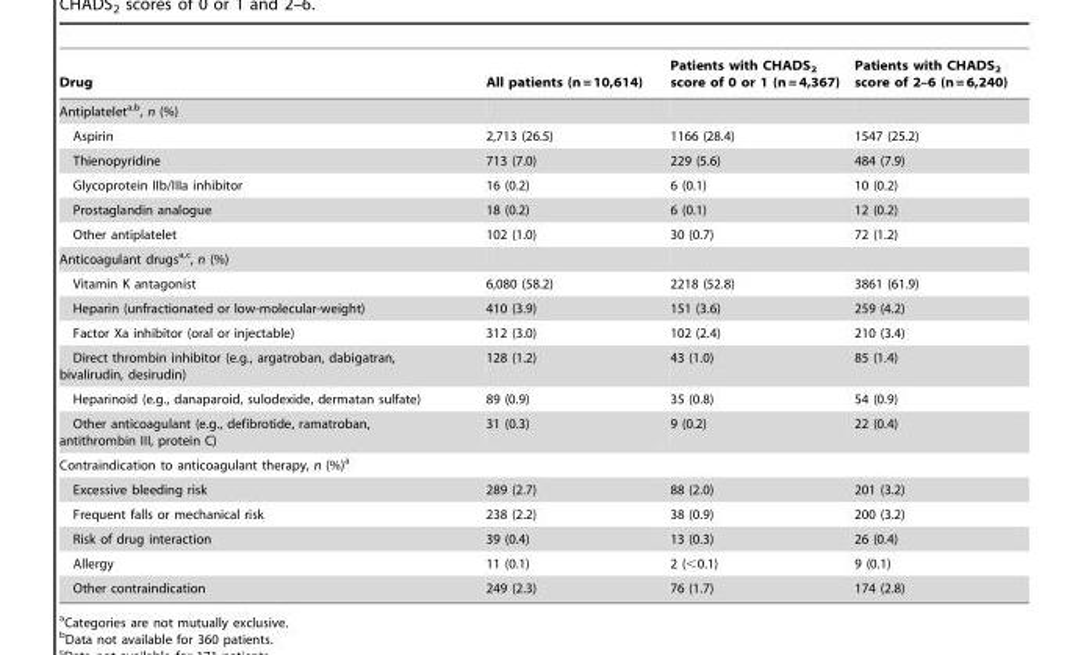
<table><thead><tr><td>Drug</td><td>All patients (n = 10,614)</td><td>Patients with CHADS<sub>2</sub> score of 0 or 1 (n = 4,367)</td><td>Patients with CHADS<sub>2</sub> score of 2–6 (n = 6,240)</td></tr></thead><tbody><tr><td colspan="4">Antiplateleta,b, n (%)</td></tr><tr><td>Aspirin</td><td>2,713 (26.5)</td><td>1166 (28.4)</td><td>1547 (25.2)</td></tr><tr><td>Thienopyridine</td><td>713 (7.0)</td><td>229 (5.6)</td><td>484 (7.9)</td></tr><tr><td>Glycoprotein IIb/IIIa inhibitor</td><td>16 (0.2)</td><td>6 (0.1)</td><td>10 (0.2)</td></tr><tr><td>Prostaglandin analogue</td><td>18 (0.2)</td><td>6 (0.1)</td><td>12 (0.2)</td></tr><tr><td>Other antiplatelet</td><td>102 (1.0)</td><td>30 (0.7)</td><td>72 (1.2)</td></tr><tr><td colspan="4">Anticoagulant drugsa,c, n (%)</td></tr><tr><td>Vitamin K antagonist</td><td>6,080 (58.2)</td><td>2218 (52.8)</td><td>3861 (61.9)</td></tr><tr><td>Heparin (unfractionated or low-molecular-weight)</td><td>410 (3.9)</td><td>151 (3.6)</td><td>259 (4.2)</td></tr><tr><td>Factor Xa inhibitor (oral or injectable)</td><td>312 (3.0)</td><td>102 (2.4)</td><td>210 (3.4)</td></tr><tr><td>Direct thrombin inhibitor (e.g., argatroban, dabigatran, bivalirudin, desirudin)</td><td>128 (1.2)</td><td>43 (1.0)</td><td>85 (1.4)</td></tr><tr><td>Heparinoid (e.g., danaparoid, sulodexide, dermatan sulfate)</td><td>89 (0.9)</td><td>35 (0.8)</td><td>54 (0.9)</td></tr><tr><td>Other anticoagulant (e.g., defibrotide, ramatroban, antithrombin III, protein C)</td><td>31 (0.3)</td><td>9 (0.2)</td><td>22 (0.4)</td></tr><tr><td colspan="4">Contraindication to anticoagulant therapy, n (%)<sup>a</sup></td></tr><tr><td>Excessive bleeding risk</td><td>289 (2.7)</td><td>88 (2.0)</td><td>201 (3.2)</td></tr><tr><td>Frequent falls or mechanical risk</td><td>238 (2.2)</td><td>38 (0.9)</td><td>200 (3.2)</td></tr><tr><td>Risk of drug interaction</td><td>39 (0.4)</td><td>13 (0.3)</td><td>26 (0.4)</td></tr><tr><td>Allergy</td><td>11 (0.1)</td><td>2 (&lt;0.1)</td><td>9 (0.1)</td></tr><tr><td>Other contraindication</td><td>249 (2.3)</td><td>76 (1.7)</td><td>174 (2.8)</td></tr></tbody></table>